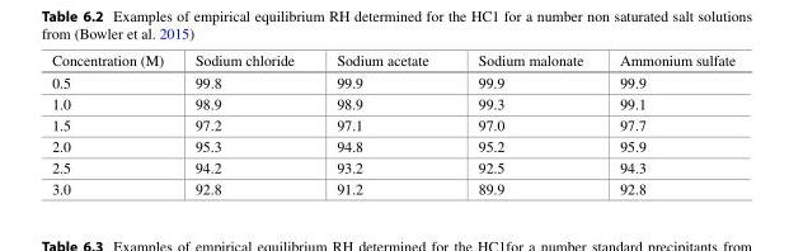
<table><thead><tr><td>Concentration (M)</td><td>Sodium chloride</td><td>Sodium acetate</td><td>Sodium malonate</td><td>Ammonium sulfate</td></tr></thead><tbody><tr><td>0.5</td><td>99.8</td><td>99.9</td><td>99.9</td><td>99.9</td></tr><tr><td>1.0</td><td>98.9</td><td>98.9</td><td>99.3</td><td>99.1</td></tr><tr><td>1.5</td><td>97.2</td><td>97.1</td><td>97.0</td><td>97.7</td></tr><tr><td>2.0</td><td>95.3</td><td>94.8</td><td>95.2</td><td>95.9</td></tr><tr><td>2.5</td><td>94.2</td><td>93.2</td><td>92.5</td><td>94.3</td></tr><tr><td>3.0</td><td>92.8</td><td>91.2</td><td>89.9</td><td>92.8</td></tr></tbody></table>